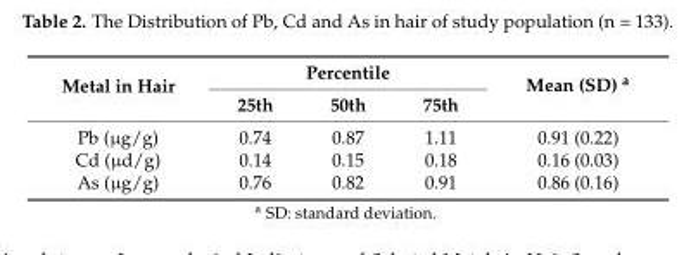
<table><thead><tr><td rowspan="2">Metal in Hair</td><td colspan="3">Percentile</td><td rowspan="2">Mean (SD) <sup>a</sup></td></tr><tr><td>25th</td><td>50th</td><td>75th</td></tr></thead><tbody><tr><td>Pb (µg/g)</td><td>0.74</td><td>0.87</td><td>1.11</td><td>0.91 (0.22)</td></tr><tr><td>Cd (µd/g)</td><td>0.14</td><td>0.15</td><td>0.18</td><td>0.16 (0.03)</td></tr><tr><td>As (µg/g)</td><td>0.76</td><td>0.82</td><td>0.91</td><td>0.86 (0.16)</td></tr></tbody></table>